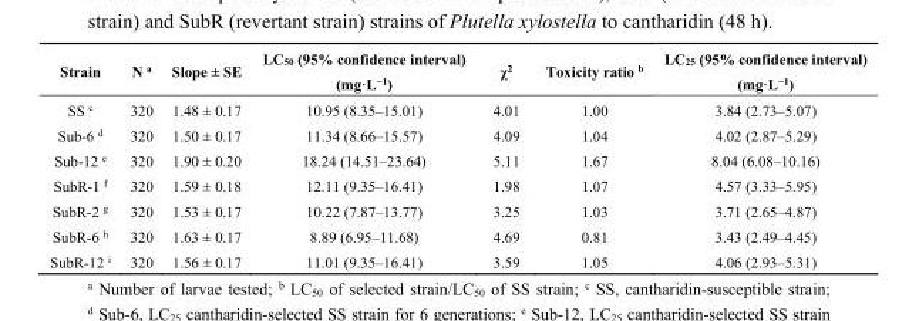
<table><thead><tr><td>Strain</td><td>N <sup>a</sup></td><td>Slope ± SE</td><td>LC<sub>50</sub> (95% confidence interval) (mg·L<sup>−1</sup>)</td><td>χ<sup>2</sup></td><td>Toxicity ratio <sup>b</sup></td><td>LC<sub>25</sub> (95% confidence interval) (mg·L<sup>−1</sup>)</td></tr></thead><tbody><tr><td>SS <sup>c</sup></td><td>320</td><td>1.48 ± 0.17</td><td>10.95 (8.35–15.01)</td><td>4.01</td><td>1.00</td><td>3.84 (2.73–5.07)</td></tr><tr><td>Sub-6 <sup>d</sup></td><td>320</td><td>1.50 ± 0.17</td><td>11.34 (8.66–15.57)</td><td>4.09</td><td>1.04</td><td>4.02 (2.87–5.29)</td></tr><tr><td>Sub-12 <sup>e</sup></td><td>320</td><td>1.90 ± 0.20</td><td>18.24 (14.51–23.64)</td><td>5.11</td><td>1.67</td><td>8.04 (6.08–10.16)</td></tr><tr><td>SubR-1 <sup>f</sup></td><td>320</td><td>1.59 ± 0.18</td><td>12.11 (9.35–16.41)</td><td>1.98</td><td>1.07</td><td>4.57 (3.33–5.95)</td></tr><tr><td>SubR-2 <sup>g</sup></td><td>320</td><td>1.53 ± 0.17</td><td>10.22 (7.87–13.77)</td><td>3.25</td><td>1.03</td><td>3.71 (2.65–4.87)</td></tr><tr><td>SubR-6 <sup>h</sup></td><td>320</td><td>1.63 ± 0.17</td><td>8.89 (6.95–11.68)</td><td>4.69</td><td>0.81</td><td>3.43 (2.49–4.45)</td></tr><tr><td>SubR-12 <sup>i</sup></td><td>320</td><td>1.56 ± 0.17</td><td>11.01 (9.35–16.41)</td><td>3.59</td><td>1.05</td><td>4.06 (2.93–5.31)</td></tr></tbody></table>